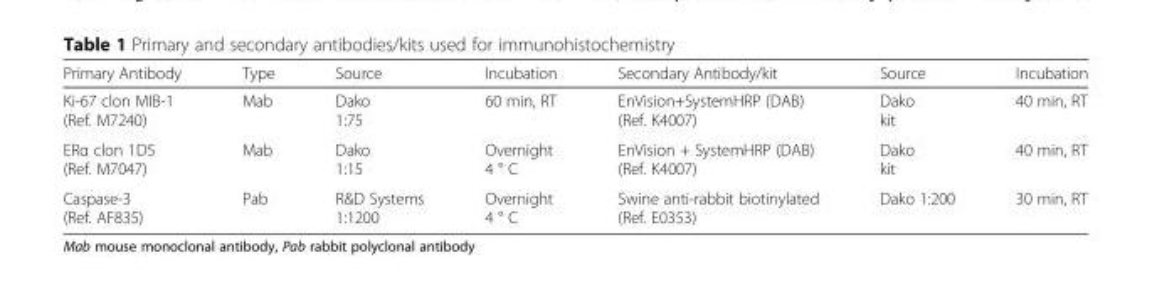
<table><thead><tr><td>Primary Antibody</td><td>Type</td><td>Source</td><td>Incubation</td><td>Secondary Antibody/kit</td><td>Source</td><td>Incubation</td></tr></thead><tbody><tr><td>Ki-67 clon MIB-1 (Ref. M7240)</td><td>Mab</td><td>Dako 1:75</td><td>60 min, RT</td><td>EnVision+SystemHRP (DAB) (Ref. K4007)</td><td>Dako kit</td><td>40 min, RT</td></tr><tr><td>ERα clon 1D5 (Ref. M7047)</td><td>Mab</td><td>Dako 1:15</td><td>Overnight 4 ° C</td><td>EnVision + SystemHRP (DAB) (Ref. K4007)</td><td>Dako kit</td><td>40 min, RT</td></tr><tr><td>Caspase-3 (Ref. AF835)</td><td>Pab</td><td>R&amp;D Systems 1:1200</td><td>Overnight 4 ° C</td><td>Swine anti-rabbit biotinylated (Ref. E0353)</td><td>Dako 1:200</td><td>30 min, RT</td></tr></tbody></table>